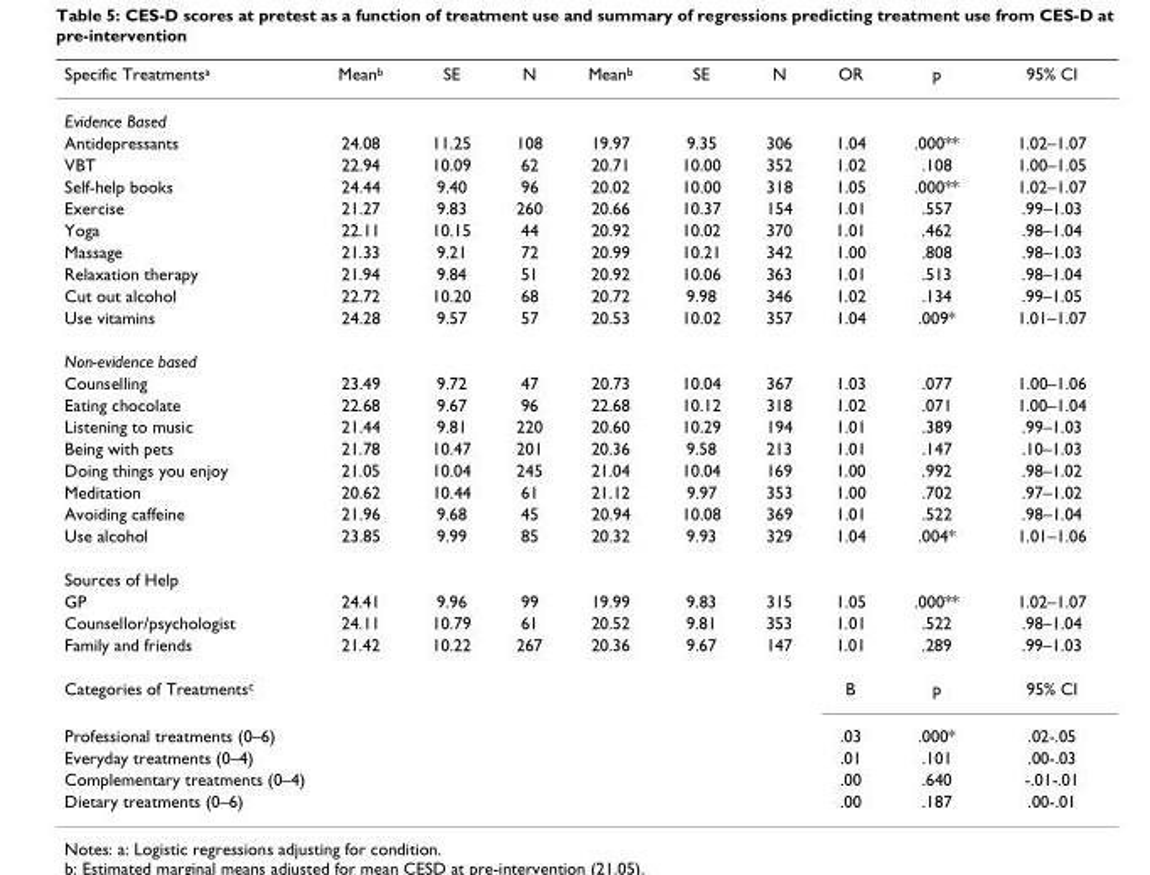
<table><thead><tr><td>Specific Treatments<sup>a</sup></td><td>Mean<sup>b</sup></td><td>SE</td><td>N</td><td>Mean<sup>b</sup></td><td>SE</td><td>N</td><td>OR</td><td>p</td><td>95% CI</td></tr></thead><tbody><tr><td colspan="10">Evidence Based</td></tr><tr><td>Antidepressants</td><td>24.08</td><td>11.25</td><td>108</td><td>19.97</td><td>9.35</td><td>306</td><td>1.04</td><td>.000**</td><td>1.02–1.07</td></tr><tr><td>VBT</td><td>22.94</td><td>10.09</td><td>62</td><td>20.71</td><td>10.00</td><td>352</td><td>1.02</td><td>.108</td><td>1.00–1.05</td></tr><tr><td>Self-help books</td><td>24.44</td><td>9.40</td><td>96</td><td>20.02</td><td>10.00</td><td>318</td><td>1.05</td><td>.000**</td><td>1.02–1.07</td></tr><tr><td>Exercise</td><td>21.27</td><td>9.83</td><td>260</td><td>20.66</td><td>10.37</td><td>154</td><td>1.01</td><td>.557</td><td>.99–1.03</td></tr><tr><td>Yoga</td><td>22.11</td><td>10.15</td><td>44</td><td>20.92</td><td>10.02</td><td>370</td><td>1.01</td><td>.462</td><td>.98–1.04</td></tr><tr><td>Massage</td><td>21.33</td><td>9.21</td><td>72</td><td>20.99</td><td>10.21</td><td>342</td><td>1.00</td><td>.808</td><td>.98–1.03</td></tr><tr><td>Relaxation therapy</td><td>21.94</td><td>9.84</td><td>51</td><td>20.92</td><td>10.06</td><td>363</td><td>1.01</td><td>.513</td><td>.98–1.04</td></tr><tr><td>Cut out alcohol</td><td>22.72</td><td>10.20</td><td>68</td><td>20.72</td><td>9.98</td><td>346</td><td>1.02</td><td>.134</td><td>.99–1.05</td></tr><tr><td>Use vitamins</td><td>24.28</td><td>9.57</td><td>57</td><td>20.53</td><td>10.02</td><td>357</td><td>1.04</td><td>.009*</td><td>1.01–1.07</td></tr><tr><td colspan="10">Non-evidence based</td></tr><tr><td>Counselling</td><td>23.49</td><td>9.72</td><td>47</td><td>20.73</td><td>10.04</td><td>367</td><td>1.03</td><td>.077</td><td>1.00–1.06</td></tr><tr><td>Eating chocolate</td><td>22.68</td><td>9.67</td><td>96</td><td>22.68</td><td>10.12</td><td>318</td><td>1.02</td><td>.071</td><td>1.00–1.04</td></tr><tr><td>Listening to music</td><td>21.44</td><td>9.81</td><td>220</td><td>20.60</td><td>10.29</td><td>194</td><td>1.01</td><td>.389</td><td>.99–1.03</td></tr><tr><td>Being with pets</td><td>21.78</td><td>10.47</td><td>201</td><td>20.36</td><td>9.58</td><td>213</td><td>1.01</td><td>.147</td><td>.10–1.03</td></tr><tr><td>Doing things you enjoy</td><td>21.05</td><td>10.04</td><td>245</td><td>21.04</td><td>10.04</td><td>169</td><td>1.00</td><td>.992</td><td>.98–1.02</td></tr><tr><td>Meditation</td><td>20.62</td><td>10.44</td><td>61</td><td>21.12</td><td>9.97</td><td>353</td><td>1.00</td><td>.702</td><td>.97–1.02</td></tr><tr><td>Avoiding caffeine</td><td>21.96</td><td>9.68</td><td>45</td><td>20.94</td><td>10.08</td><td>369</td><td>1.01</td><td>.522</td><td>.98–1.04</td></tr><tr><td>Use alcohol</td><td>23.85</td><td>9.99</td><td>85</td><td>20.32</td><td>9.93</td><td>329</td><td>1.04</td><td>.004*</td><td>1.01–1.06</td></tr><tr><td colspan="10">Sources of Help</td></tr><tr><td>GP</td><td>24.41</td><td>9.96</td><td>99</td><td>19.99</td><td>9.83</td><td>315</td><td>1.05</td><td>.000**</td><td>1.02–1.07</td></tr><tr><td>Counsellor/psychologist</td><td>24.11</td><td>10.79</td><td>61</td><td>20.52</td><td>9.81</td><td>353</td><td>1.01</td><td>.522</td><td>.98–1.04</td></tr><tr><td>Family and friends</td><td>21.42</td><td>10.22</td><td>267</td><td>20.36</td><td>9.67</td><td>147</td><td>1.01</td><td>.289</td><td>.99–1.03</td></tr><tr><td>Categories of Treatments<sup>c</sup></td><td></td><td></td><td></td><td></td><td></td><td></td><td>B</td><td>p</td><td>95% CI</td></tr><tr><td>Professional treatments (0–6)</td><td></td><td></td><td></td><td></td><td></td><td></td><td>.03</td><td>.000*</td><td>.02-.05</td></tr><tr><td>Everyday treatments (0–4)</td><td></td><td></td><td></td><td></td><td></td><td></td><td>.01</td><td>.101</td><td>.00-.03</td></tr><tr><td>Complementary treatments (0–4)</td><td></td><td></td><td></td><td></td><td></td><td></td><td>.00</td><td>.640</td><td>-.01-.01</td></tr><tr><td>Dietary treatments (0–6)</td><td></td><td></td><td></td><td></td><td></td><td></td><td>.00</td><td>.187</td><td>.00-.01</td></tr></tbody></table>